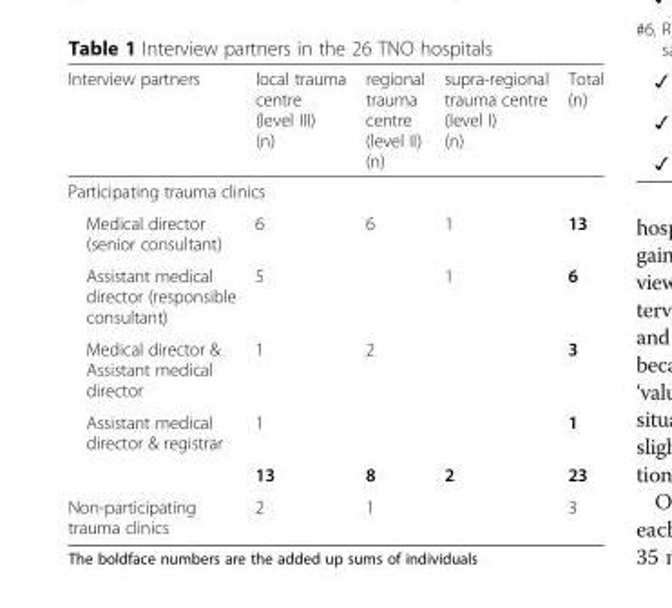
<table><thead><tr><td>Interview partners</td><td>local trauma centre (level III) (n)</td><td>regional trauma centre (level II) (n)</td><td>supra-regional trauma centre (level I) (n)</td><td>Total (n)</td></tr></thead><tbody><tr><td colspan="5">Participating trauma clinics</td></tr><tr><td>Medical director (senior consultant)</td><td>6</td><td>6</td><td>1</td><td>13</td></tr><tr><td>Assistant medical director (responsible consultant)</td><td>5</td><td></td><td>1</td><td>6</td></tr><tr><td>Medical director &amp; Assistant medical director</td><td>1</td><td>2</td><td></td><td>3</td></tr><tr><td rowspan="2">Assistant medical director &amp; registrar</td><td>1</td><td></td><td></td><td>1</td></tr><tr><td>13</td><td>8</td><td>2</td><td>23</td></tr><tr><td>Non-participating trauma clinics</td><td>2</td><td>1</td><td></td><td>3</td></tr></tbody></table>